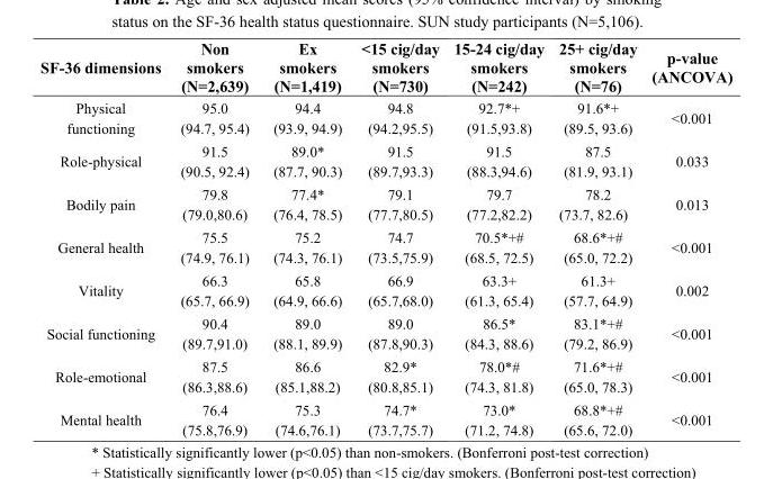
<table><thead><tr><td>SF-36 dimensions</td><td>Non smokers (N=2,639)</td><td>Ex smokers (N=1,419)</td><td>&lt;15 cig/day smokers (N=730)</td><td>15-24 cig/day smokers (N=242)</td><td>25+ cig/day smokers (N=76)</td><td>p-value (ANCOVA)</td></tr></thead><tbody><tr><td>Physical functioning</td><td>95.0 (94.7, 95.4)</td><td>94.4 (93.9, 94.9)</td><td>94.8 (94.2,95.5)</td><td>92.7*+ (91.5,93.8)</td><td>91.6*+ (89.5, 93.6)</td><td>&lt;0.001</td></tr><tr><td>Role-physical</td><td>91.5 (90.5, 92.4)</td><td>89.0* (87.7, 90.3)</td><td>91.5 (89.7,93.3)</td><td>91.5 (88.3,94.6)</td><td>87.5 (81.9, 93.1)</td><td>0.033</td></tr><tr><td>Bodily pain</td><td>79.8 (79.0,80.6)</td><td>77.4* (76.4, 78.5)</td><td>79.1 (77.7,80.5)</td><td>79.7 (77.2,82.2)</td><td>78.2 (73.7, 82.6)</td><td>0.013</td></tr><tr><td>General health</td><td>75.5 (74.9, 76.1)</td><td>75.2 (74.3, 76.1)</td><td>74.7 (73.5,75.9)</td><td>70.5*+# (68.5, 72.5)</td><td>68.6*+# (65.0, 72.2)</td><td>&lt;0.001</td></tr><tr><td>Vitality</td><td>66.3 (65.7, 66.9)</td><td>65.8 (64.9, 66.6)</td><td>66.9 (65.7,68.0)</td><td>63.3+ (61.3, 65.4)</td><td>61.3+ (57.7, 64.9)</td><td>0.002</td></tr><tr><td>Social functioning</td><td>90.4 (89.7,91.0)</td><td>89.0 (88.1, 89.9)</td><td>89.0 (87.8,90.3)</td><td>86.5* (84.3, 88.6)</td><td>83.1*+# (79.2, 86.9)</td><td>&lt;0.001</td></tr><tr><td>Role-emotional</td><td>87.5 (86.3,88.6)</td><td>86.6 (85.1,88.2)</td><td>82.9* (80.8,85.1)</td><td>78.0*# (74.3, 81.8)</td><td>71.6*+# (65.0, 78.3)</td><td>&lt;0.001</td></tr><tr><td>Mental health</td><td>76.4 (75.8,76.9)</td><td>75.3 (74.6,76.1)</td><td>74.7* (73.7,75.7)</td><td>73.0* (71.2, 74.8)</td><td>68.8*+# (65.6, 72.0)</td><td>&lt;0.001</td></tr></tbody></table>